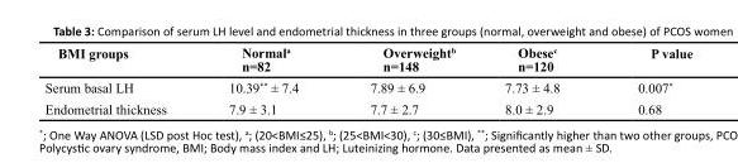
<table><thead><tr><td>BMI groups</td><td>Normala n=82</td><td>Overweightb n=148</td><td>Obesec n=120</td><td>P value</td></tr></thead><tbody><tr><td>Serum basal LH</td><td>10.39** ± 7.4</td><td>7.89 ± 6.9</td><td>7.73 ± 4.8</td><td>0.007*</td></tr><tr><td>Endometrial thickness</td><td>7.9 ± 3.1</td><td>7.7 ± 2.7</td><td>8.0 ± 2.9</td><td>0.68</td></tr></tbody></table>